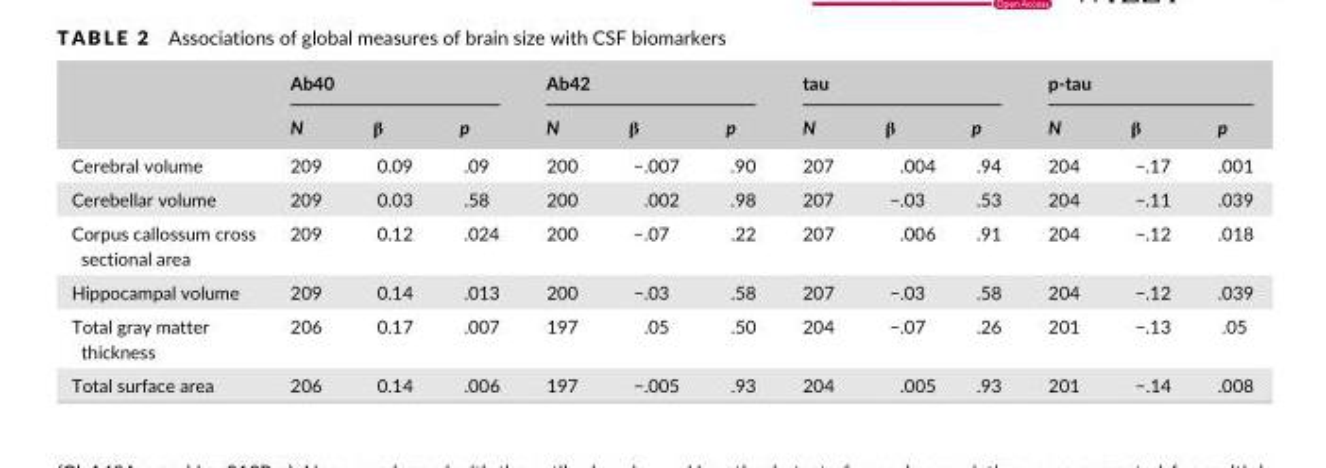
<table><thead><tr><td rowspan="2"></td><td colspan="3">Ab40</td><td colspan="3">Ab42</td><td colspan="3">tau</td><td colspan="3">p- tau</td></tr><tr><td>N</td><td>β</td><td>p</td><td>N</td><td>β</td><td>p</td><td>N</td><td>β</td><td>p</td><td>N</td><td>β</td><td>p</td></tr></thead><tbody><tr><td>Cerebral volume</td><td>209</td><td>0.09</td><td>.09</td><td>200</td><td>−.007</td><td>.90</td><td>207</td><td>.004</td><td>.94</td><td>204</td><td>−.17</td><td>.001</td></tr><tr><td>Cerebellar volume</td><td>209</td><td>0.03</td><td>.58</td><td>200</td><td>.002</td><td>.98</td><td>207</td><td>−.03</td><td>.53</td><td>204</td><td>−.11</td><td>.039</td></tr><tr><td>Corpus callossum cross sectional area</td><td>209</td><td>0.12</td><td>.024</td><td>200</td><td>−.07</td><td>.22</td><td>207</td><td>.006</td><td>.91</td><td>204</td><td>−.12</td><td>.018</td></tr><tr><td>Hippocampal volume</td><td>209</td><td>0.14</td><td>.013</td><td>200</td><td>−.03</td><td>.58</td><td>207</td><td>−.03</td><td>.58</td><td>204</td><td>−.12</td><td>.039</td></tr><tr><td>Total gray matter thickness</td><td>206</td><td>0.17</td><td>.007</td><td>197</td><td>.05</td><td>.50</td><td>204</td><td>−.07</td><td>.26</td><td>201</td><td>−.13</td><td>.05</td></tr><tr><td>Total surface area</td><td>206</td><td>0.14</td><td>.006</td><td>197</td><td>−.005</td><td>.93</td><td>204</td><td>.005</td><td>.93</td><td>201</td><td>−.14</td><td>.008</td></tr></tbody></table>